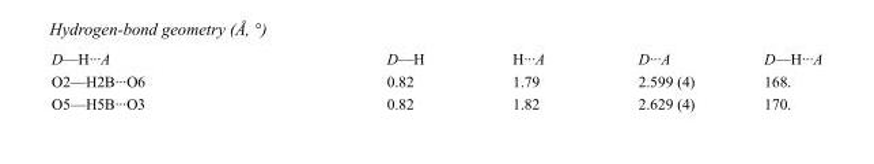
<table><tbody><tr><td>D—H···A</td><td>D—H</td><td>H···A</td><td>D···A</td><td>D—H···A</td></tr><tr><td>O2—H2B···O6</td><td>0.82</td><td>1.79</td><td>2.599 (4)</td><td>168.</td></tr><tr><td>O5—H5B···O3</td><td>0.82</td><td>1.82</td><td>2.629 (4)</td><td>170.</td></tr></tbody></table>